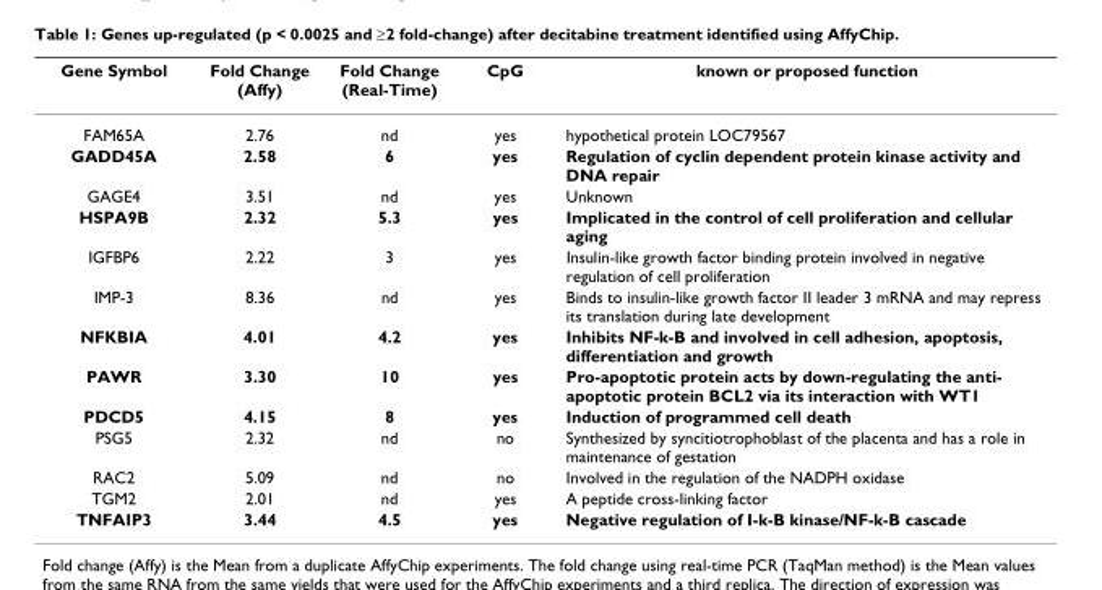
<table><thead><tr><td>Gene Symbol</td><td>Fold Change (Affy)</td><td>Fold Change (Real-Time)</td><td>CpG</td><td>known or proposed function</td></tr></thead><tbody><tr><td>FAM65A</td><td>2.76</td><td>nd</td><td>yes</td><td>hypothetical protein LOC79567</td></tr><tr><td>GADD45A</td><td>2.58</td><td>6</td><td>yes</td><td>Regulation of cyclin dependent protein kinase activity and DNA repair</td></tr><tr><td>GAGE4</td><td>3.51</td><td>nd</td><td>yes</td><td>Unknown</td></tr><tr><td>HSPA9B</td><td>2.32</td><td>5.3</td><td>yes</td><td>Implicated in the control of cell proliferation and cellular aging</td></tr><tr><td>IGFBP6</td><td>2.22</td><td>3</td><td>yes</td><td>Insulin-like growth factor binding protein involved in negative regulation of cell proliferation</td></tr><tr><td>IMP-3</td><td>8.36</td><td>nd</td><td>yes</td><td>Binds to insulin-like growth factor II leader 3 mRNA and may repress its translation during late development</td></tr><tr><td>NFKBIA</td><td>4.01</td><td>4.2</td><td>yes</td><td>Inhibits NF-k-B and involved in cell adhesion, apoptosis, differentiation and growth</td></tr><tr><td>PAWR</td><td>3.30</td><td>10</td><td>yes</td><td>Pro-apoptotic protein acts by down-regulating the anti- apoptotic protein BCL2 via its interaction with WT1</td></tr><tr><td>PDCD5</td><td>4.15</td><td>8</td><td>yes</td><td>Induction of programmed cell death</td></tr><tr><td>PSG5</td><td>2.32</td><td>nd</td><td>no</td><td>Synthesized by syncitiotrophoblast of the placenta and has a role in maintenance of gestation</td></tr><tr><td>RAC2</td><td>5.09</td><td>nd</td><td>no</td><td>Involved in the regulation of the NADPH oxidase</td></tr><tr><td>TGM2</td><td>2.01</td><td>nd</td><td>yes</td><td>A peptide cross-linking factor</td></tr><tr><td>TNFAIP3</td><td>3.44</td><td>4.5</td><td>yes</td><td>Negative regulation of I-k-B kinase/NF-k-B cascade</td></tr></tbody></table>